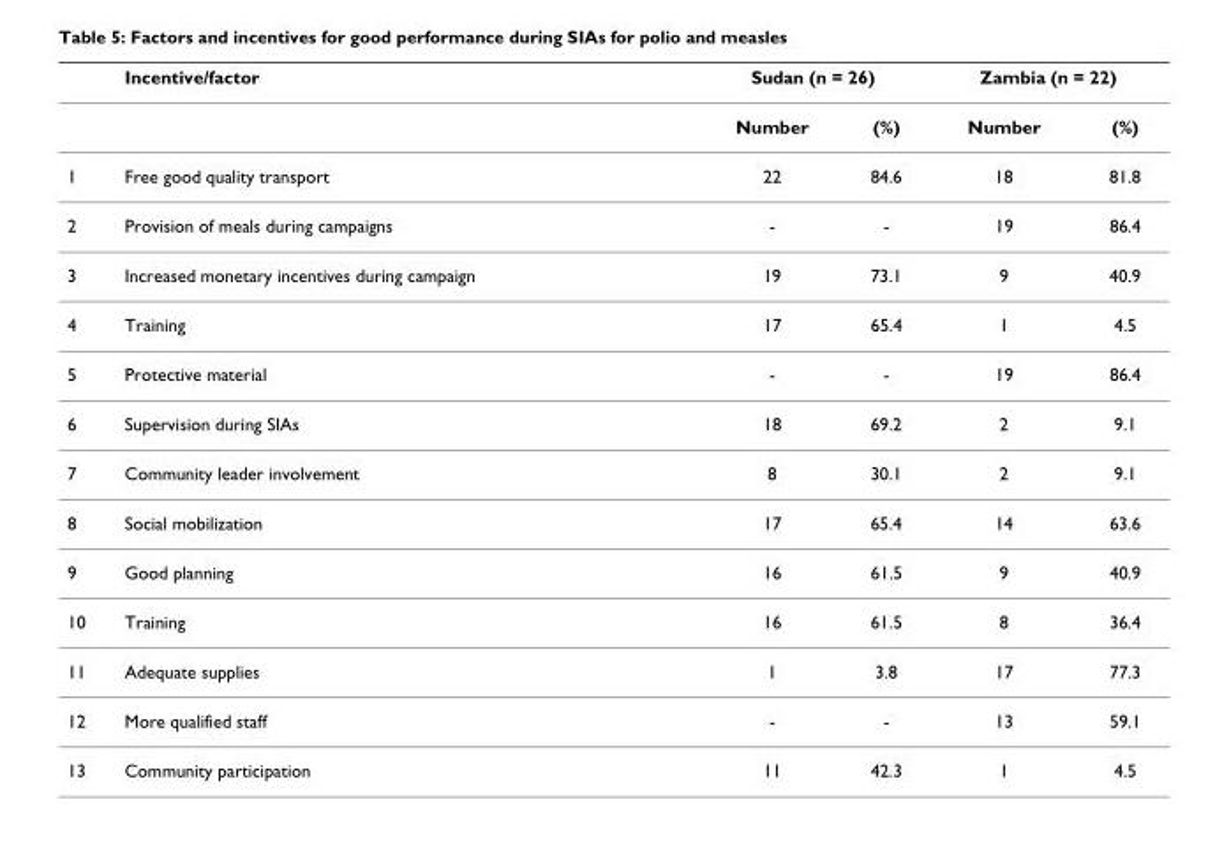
<table><thead><tr><td rowspan="2"></td><td rowspan="2">Incentive/factor</td><td colspan="2">Sudan (n = 26)</td><td colspan="2">Zambia (n = 22)</td></tr><tr><td>Number</td><td>(%)</td><td>Number</td><td>(%)</td></tr></thead><tbody><tr><td>1</td><td>Free good quality transport</td><td>22</td><td>84.6</td><td>18</td><td>81.8</td></tr><tr><td>2</td><td>Provision of meals during campaigns</td><td>-</td><td>-</td><td>19</td><td>86.4</td></tr><tr><td>3</td><td>Increased monetary incentives during campaign</td><td>19</td><td>73.1</td><td>9</td><td>40.9</td></tr><tr><td>4</td><td>Training</td><td>17</td><td>65.4</td><td>1</td><td>4.5</td></tr><tr><td>5</td><td>Protective material</td><td>-</td><td>-</td><td>19</td><td>86.4</td></tr><tr><td>6</td><td>Supervision during SIAs</td><td>18</td><td>69.2</td><td>2</td><td>9.1</td></tr><tr><td>7</td><td>Community leader involvement</td><td>8</td><td>30.1</td><td>2</td><td>9.1</td></tr><tr><td>8</td><td>Social mobilization</td><td>17</td><td>65.4</td><td>14</td><td>63.6</td></tr><tr><td>9</td><td>Good planning</td><td>16</td><td>61.5</td><td>9</td><td>40.9</td></tr><tr><td>10</td><td>Training</td><td>16</td><td>61.5</td><td>8</td><td>36.4</td></tr><tr><td>11</td><td>Adequate supplies</td><td>1</td><td>3.8</td><td>17</td><td>77.3</td></tr><tr><td>12</td><td>More qualified staff</td><td>-</td><td>-</td><td>13</td><td>59.1</td></tr><tr><td>13</td><td>Community participation</td><td>11</td><td>42.3</td><td>1</td><td>4.5</td></tr></tbody></table>